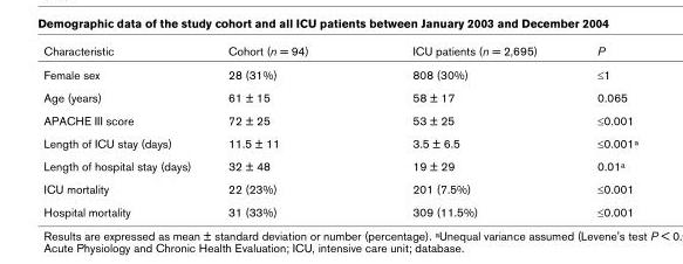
<table><thead><tr><td>Characteristic</td><td>Cohort (n = 94)</td><td>ICU patients (n = 2,695)</td><td>P</td></tr></thead><tbody><tr><td>Female sex</td><td>28 (31%)</td><td>808 (30%)</td><td>≤1</td></tr><tr><td>Age (years)</td><td>61 ± 15</td><td>58 ± 17</td><td>0.065</td></tr><tr><td>APACHE III score</td><td>72 ± 25</td><td>53 ± 25</td><td>≤0.001</td></tr><tr><td>Length of ICU stay (days)</td><td>11.5 ± 11</td><td>3.5 ± 6.5</td><td>≤0.001<sup>a</sup></td></tr><tr><td>Length of hospital stay (days)</td><td>32 ± 48</td><td>19 ± 29</td><td>0.01<sup>a</sup></td></tr><tr><td>ICU mortality</td><td>22 (23%)</td><td>201 (7.5%)</td><td>≤0.001</td></tr><tr><td>Hospital mortality</td><td>31 (33%)</td><td>309 (11.5%)</td><td>≤0.001</td></tr></tbody></table>